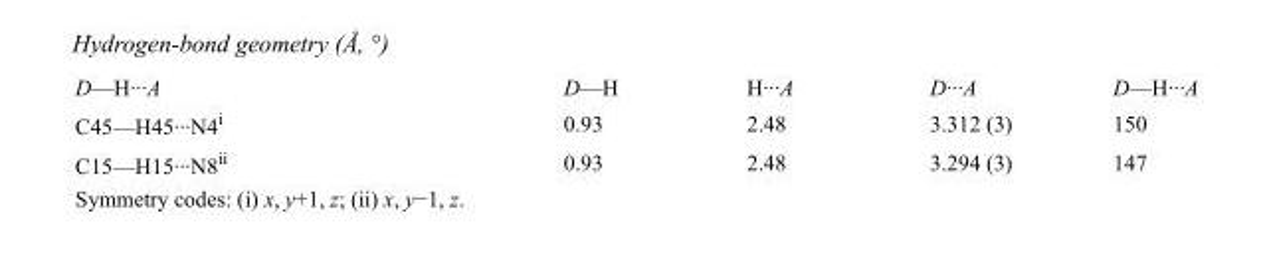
<table><tbody><tr><td>D—H···A</td><td>D—H</td><td>H···A</td><td>D···A</td><td>D—H···A</td></tr><tr><td>C45—H45···N4<sup>i</sup></td><td>0.93</td><td>2.48</td><td>3.312 (3)</td><td>150</td></tr><tr><td>C15—H15···N8<sup>ii</sup></td><td>0.93</td><td>2.48</td><td>3.294 (3)</td><td>147</td></tr></tbody></table>